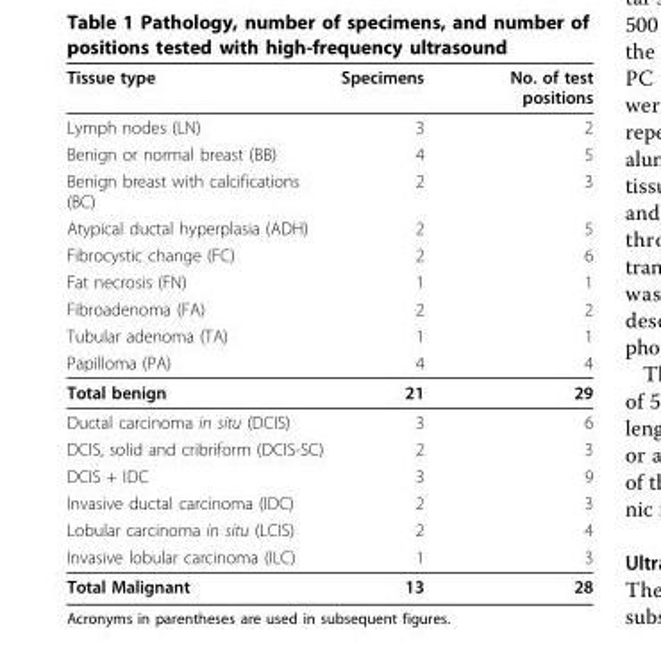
<table><thead><tr><td>Tissue type</td><td>Specimens</td><td>No. of test positions</td></tr></thead><tbody><tr><td>Lymph nodes (LN)</td><td>3</td><td>2</td></tr><tr><td>Benign or normal breast (BB)</td><td>4</td><td>5</td></tr><tr><td>Benign breast with calcifications (BC)</td><td>2</td><td>3</td></tr><tr><td>Atypical ductal hyperplasia (ADH)</td><td>2</td><td>5</td></tr><tr><td>Fibrocystic change (FC)</td><td>2</td><td>6</td></tr><tr><td>Fat necrosis (FN)</td><td>1</td><td>1</td></tr><tr><td>Fibroadenoma (FA)</td><td>2</td><td>2</td></tr><tr><td>Tubular adenoma (TA)</td><td>1</td><td>1</td></tr><tr><td>Papilloma (PA)</td><td>4</td><td>4</td></tr><tr><td>Total benign</td><td>21</td><td>29</td></tr><tr><td>Ductal carcinoma in situ (DCIS)</td><td>3</td><td>6</td></tr><tr><td>DCIS, solid and cribriform (DCIS-SC)</td><td>2</td><td>3</td></tr><tr><td>DCIS + IDC</td><td>3</td><td>9</td></tr><tr><td>Invasive ductal carcinoma (IDC)</td><td>2</td><td>3</td></tr><tr><td>Lobular carcinoma in situ (LCIS)</td><td>2</td><td>4</td></tr><tr><td>Invasive lobular carcinoma (ILC)</td><td>1</td><td>3</td></tr><tr><td>Total Malignant</td><td>13</td><td>28</td></tr></tbody></table>